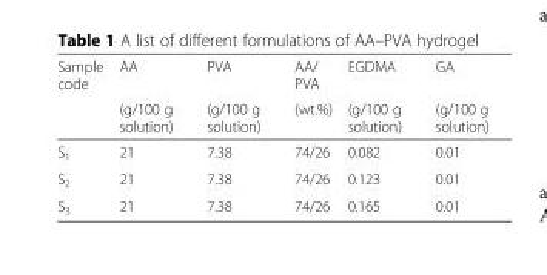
<table><thead><tr><td rowspan="2">Sample code</td><td rowspan="2">AA (g/100 g solution)</td><td rowspan="2">PVA (g/100 g solution)</td><td rowspan="2">AA/ PVA (wt.%)</td><td rowspan="2">EGDMA (g/100 g solution)</td><td rowspan="2">GA (g/100 g solution)</td></tr><tr></tr></thead><tbody><tr><td>S<sub>1</sub></td><td>21</td><td>7.38</td><td>74/26</td><td>0.082</td><td>0.01</td></tr><tr><td>S<sub>2</sub></td><td>21</td><td>7.38</td><td>74/26</td><td>0.123</td><td>0.01</td></tr><tr><td>S<sub>3</sub></td><td>21</td><td>7.38</td><td>74/26</td><td>0.165</td><td>0.01</td></tr></tbody></table>